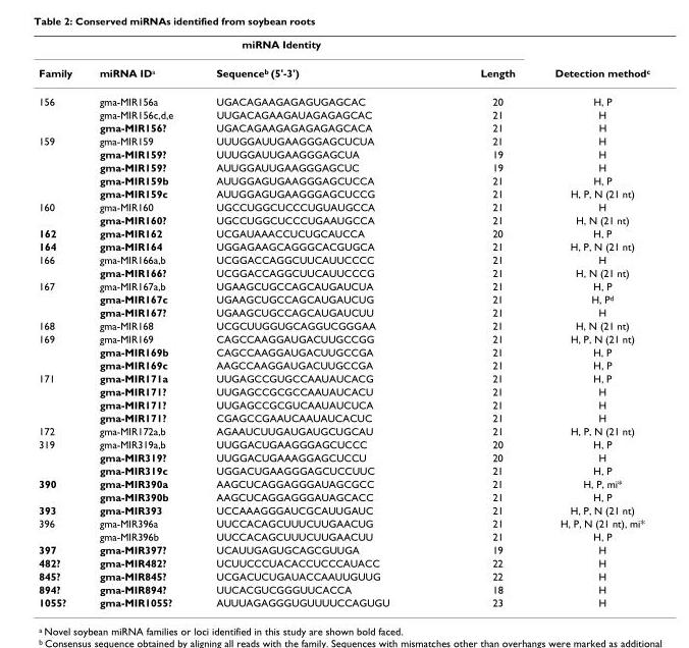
<table><thead><tr><td colspan="4">miRNA Identity</td><td rowspan="2">Detection method<sup>c</sup></td></tr><tr><td>Family</td><td>miRNA ID<sup>a</sup></td><td>Sequence<sup>b</sup> (5&#x27;-3&#x27;)</td><td>Length</td></tr></thead><tbody><tr><td rowspan="3">156</td><td>gma-MIR156a</td><td>UGACAGAAGAGAGUGAGCAC</td><td>20</td><td>H, P</td></tr><tr><td>gma-MIR156c,d,e</td><td>UUGACAGAAGAUAGAGAGCAC</td><td>21</td><td>H</td></tr><tr><td>gma-MIR156?</td><td>UGACAGAAGAGAGAGAGCACA</td><td>21</td><td>H</td></tr><tr><td rowspan="5">159</td><td>gma-MIR159</td><td>UUUGGAUUGAAGGGAGCUCUA</td><td>21</td><td>H</td></tr><tr><td>gma-MIR159?</td><td>UUUGGAUUGAAGGGAGCUA</td><td>19</td><td>H</td></tr><tr><td>gma-MIR159?</td><td>AUUGGAUUGAAGGGAGCUC</td><td>19</td><td>H</td></tr><tr><td>gma-MIR159b</td><td>AUUGGAGUGAAGGGAGCUCCA</td><td>21</td><td>H, P</td></tr><tr><td>gma-MIR159c</td><td>AUUGGAGUGAAGGGAGCUCCG</td><td>21</td><td>H, P, N (21 nt)</td></tr><tr><td rowspan="2">160</td><td>gma-MIR160</td><td>UGCCUGGCUCCCUGUAUGCCA</td><td>21</td><td>H</td></tr><tr><td>gma-MIR160?</td><td>UGCCUGGCUCCCUGAAUGCCA</td><td>21</td><td>H, N (21 nt)</td></tr><tr><td>162</td><td>gma-MIR162</td><td>UCGAUAAACCUCUGCAUCCA</td><td>20</td><td>H, P</td></tr><tr><td>164</td><td>gma-MIR164</td><td>UGGAGAAGCAGGGCACGUGCA</td><td>21</td><td>H, P, N (21 nt)</td></tr><tr><td rowspan="2">166</td><td>gma-MIR166a,b</td><td>UCGGACCAGGCUUCAUUCCCC</td><td>21</td><td>H</td></tr><tr><td>gma-MIR166?</td><td>UCGGACCAGGCUUCAUUCCCG</td><td>21</td><td>H, N (21 nt)</td></tr><tr><td rowspan="3">167</td><td>gma-MIR167a,b</td><td>UGAAGCUGCCAGCAUGAUCUA</td><td>21</td><td>H, P</td></tr><tr><td>gma-MIR167c</td><td>UGAAGCUGCCAGCAUGAUCUG</td><td>21</td><td>H, P<sup>d</sup></td></tr><tr><td>gma-MIR167?</td><td>UGAAGCUGCCAGCAUGAUCUU</td><td>21</td><td>H</td></tr><tr><td>168</td><td>gma-MIR168</td><td>UCGCUUGGUGCAGGUCGGGAA</td><td>21</td><td>H, N (21 nt)</td></tr><tr><td rowspan="3">169</td><td>gma-MIR169</td><td>CAGCCAAGGAUGACUUGCCGG</td><td>21</td><td>H, P, N (21 nt)</td></tr><tr><td>gma-MIR169b</td><td>CAGCCAAGGAUGACUUGCCGA</td><td>21</td><td>H, P</td></tr><tr><td>gma-MIR169c</td><td>AAGCCAAGGAUGACUUGCCGA</td><td>21</td><td>H, P</td></tr><tr><td rowspan="4">171</td><td>gma-MIR171a</td><td>UUGAGCCGUGCCAAUAUCACG</td><td>21</td><td>H, P</td></tr><tr><td>gma-MIR171?</td><td>UUGAGCCGCGCCAAUAUCACU</td><td>21</td><td>H</td></tr><tr><td>gma-MIR171?</td><td>UUGAGCCGCGUCAAUAUCUCA</td><td>21</td><td>H</td></tr><tr><td>gma-MIR171?</td><td>CGAGCCGAAUCAAUAUCACUC</td><td>21</td><td>H</td></tr><tr><td>172</td><td>gma-MIR172a,b</td><td>AGAAUCUUGAUGAUGCUGCAU</td><td>21</td><td>H, P, N (21 nt)</td></tr><tr><td rowspan="3">319</td><td>gma-MIR319a,b</td><td>UUGGACUGAAGGGAGCUCCC</td><td>20</td><td>H, P</td></tr><tr><td>gma-MIR319?</td><td>UUGGACUGAAAGGAGCUCCU</td><td>20</td><td>H</td></tr><tr><td>gma-MIR319c</td><td>UGGACUGAAGGGAGCUCCUUC</td><td>21</td><td>H, P</td></tr><tr><td rowspan="2">390</td><td>gma-MIR390a</td><td>AAGCUCAGGAGGGAUAGCGCC</td><td>21</td><td>H, P, mi*</td></tr><tr><td>gma-MIR390b</td><td>AAGCUCAGGAGGGAUAGCACC</td><td>21</td><td>H, P</td></tr><tr><td>393</td><td>gma-MIR393</td><td>UCCAAAGGGAUCGCAUUGAUC</td><td>21</td><td>H, P, N (21 nt)</td></tr><tr><td rowspan="2">396</td><td>gma-MIR396a</td><td>UUCCACAGCUUUCUUGAACUG</td><td>21</td><td>H, P, N (21 nt), mi*</td></tr><tr><td>gma-MIR396b</td><td>UUCCACAGCUUUCUUGAACUU</td><td>21</td><td>H, P</td></tr><tr><td>397</td><td>gma-MIR397?</td><td>UCAUUGAGUGCAGCGUUGA</td><td>19</td><td>H</td></tr><tr><td>482?</td><td>gma-MIR482?</td><td>UCUUCCCUACACCUCCCAUACC</td><td>22</td><td>H</td></tr><tr><td>845?</td><td>gma-MIR845?</td><td>UCGACUCUGAUACCAAUUGUUG</td><td>22</td><td>H</td></tr><tr><td>894?</td><td>gma-MIR894?</td><td>UUCACGUCGGGUUCACCA</td><td>18</td><td>H</td></tr><tr><td>1055?</td><td>gma-MIR1055?</td><td>AUUUAGAGGGUGUUUUCCAGUGU</td><td>23</td><td>H</td></tr></tbody></table>